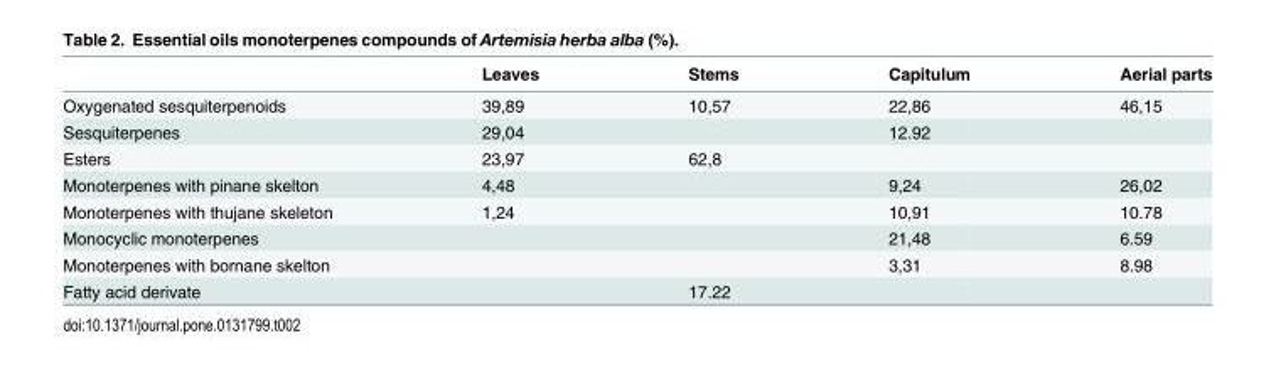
<table><thead><tr><td></td><td>Leaves</td><td>Stems</td><td>Capitulum</td><td>Aerial parts</td></tr></thead><tbody><tr><td>Oxygenated sesquiterpenoids</td><td>39,89</td><td>10,57</td><td>22,86</td><td>46,15</td></tr><tr><td>Sesquiterpenes</td><td>29,04</td><td></td><td>12.92</td><td></td></tr><tr><td>Esters</td><td>23,97</td><td>62,8</td><td></td><td></td></tr><tr><td>Monoterpenes with pinane skelton</td><td>4,48</td><td></td><td>9,24</td><td>26,02</td></tr><tr><td>Monoterpenes with thujane skeleton</td><td>1,24</td><td></td><td>10,91</td><td>10.78</td></tr><tr><td>Monocyclic monoterpenes</td><td></td><td></td><td>21,48</td><td>6.59</td></tr><tr><td>Monoterpenes with bornane skelton</td><td></td><td></td><td>3,31</td><td>8.98</td></tr><tr><td>Fatty acid derivate</td><td></td><td>17.22</td><td></td><td></td></tr></tbody></table>